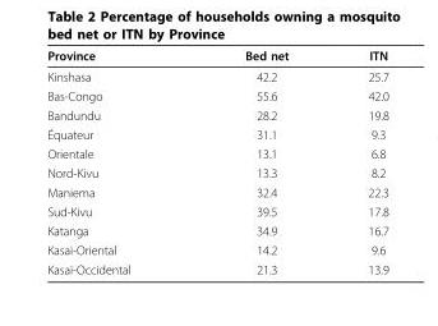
<table><thead><tr><td>Province</td><td>Bed net</td><td>ITN</td></tr></thead><tbody><tr><td>Kinshasa</td><td>42.2</td><td>25.7</td></tr><tr><td>Bas-Congo</td><td>55.6</td><td>42.0</td></tr><tr><td>Bandundu</td><td>28.2</td><td>19.8</td></tr><tr><td>Équateur</td><td>31.1</td><td>9.3</td></tr><tr><td>Orientale</td><td>13.1</td><td>6.8</td></tr><tr><td>Nord-Kivu</td><td>13.3</td><td>8.2</td></tr><tr><td>Maniema</td><td>32.4</td><td>22.3</td></tr><tr><td>Sud-Kivu</td><td>39.5</td><td>17.8</td></tr><tr><td>Katanga</td><td>34.9</td><td>16.7</td></tr><tr><td>Kasaï-Oriental</td><td>14.2</td><td>9.6</td></tr><tr><td>Kasaï-Occidental</td><td>21.3</td><td>13.9</td></tr></tbody></table>